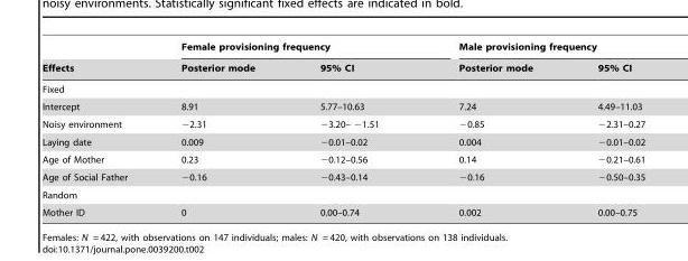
<table><thead><tr><td rowspan="2">Effects</td><td colspan="2">Female provisioning frequency</td><td colspan="2">Male provisioning frequency</td></tr><tr><td>Posterior mode</td><td>95% CI</td><td>Posterior mode</td><td>95% CI</td></tr></thead><tbody><tr><td colspan="5">Fixed</td></tr><tr><td>Intercept</td><td>8.91</td><td>5.77–10.63</td><td>7.24</td><td>4.49–11.03</td></tr><tr><td>Noisy environment</td><td>−2.31</td><td>−3.20– −1.51</td><td>−0.85</td><td>−2.31–0.27</td></tr><tr><td>Laying date</td><td>0.009</td><td>−0.01–0.02</td><td>0.004</td><td>−0.01–0.02</td></tr><tr><td>Age of Mother</td><td>0.23</td><td>−0.12–0.56</td><td>0.14</td><td>−0.21–0.61</td></tr><tr><td>Age of Social Father</td><td>−0.16</td><td>−0.43–0.14</td><td>−0.16</td><td>−0.50–0.35</td></tr><tr><td colspan="5">Random</td></tr><tr><td>Mother ID</td><td>0</td><td>0.00–0.74</td><td>0.002</td><td>0.00–0.75</td></tr></tbody></table>